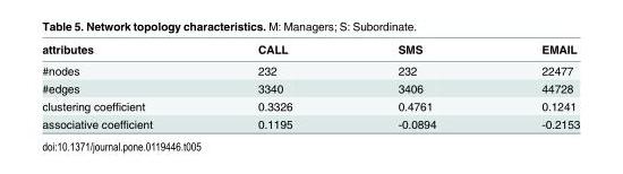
<table><thead><tr><td>attributes</td><td>CALL</td><td>SMS</td><td>EMAIL</td></tr></thead><tbody><tr><td>#nodes</td><td>232</td><td>232</td><td>22477</td></tr><tr><td>#edges</td><td>3340</td><td>3406</td><td>44728</td></tr><tr><td>clustering coefficient</td><td>0.3326</td><td>0.4761</td><td>0.1241</td></tr><tr><td>associative coefficient</td><td>0.1195</td><td>-0.0894</td><td>-0.2153</td></tr></tbody></table>